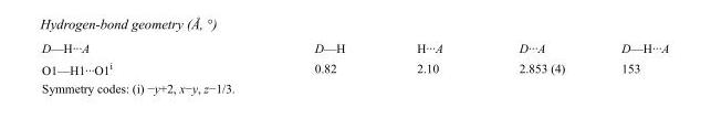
<table><tbody><tr><td>D—H···A</td><td>D—H</td><td>H···A</td><td>D···A</td><td>D—H···A</td></tr><tr><td>O1—H1···O1<sup>i</sup></td><td>0.82</td><td>2.10</td><td>2.853 (4)</td><td>153</td></tr></tbody></table>